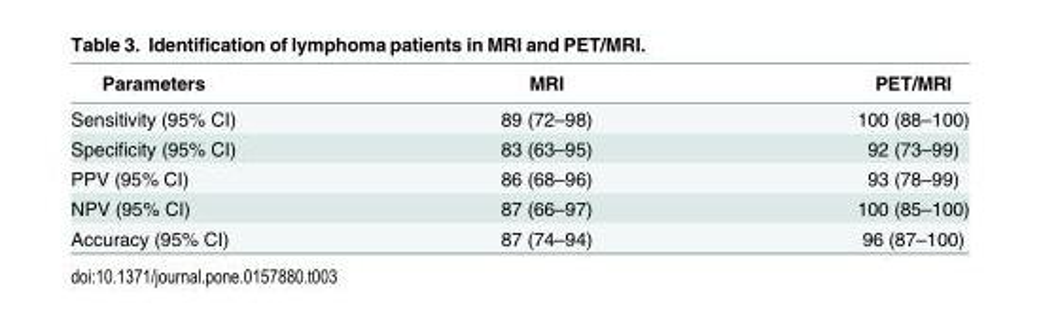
<table><thead><tr><td>Parameters</td><td>MRI</td><td>PET/MRI</td></tr></thead><tbody><tr><td>Sensitivity (95% CI)</td><td>89 (72–98)</td><td>100 (88–100)</td></tr><tr><td>Specificity (95% CI)</td><td>83 (63–95)</td><td>92 (73–99)</td></tr><tr><td>PPV (95% CI)</td><td>86 (68–96)</td><td>93 (78–99)</td></tr><tr><td>NPV (95% CI)</td><td>87 (66–97)</td><td>100 (85–100)</td></tr><tr><td>Accuracy (95% CI)</td><td>87 (74–94)</td><td>96 (87–100)</td></tr></tbody></table>